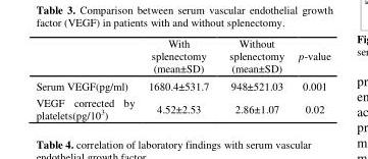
<table><thead><tr><td></td><td>With splenectomy (mean±SD)</td><td>Without splenectomy (mean±SD)</td><td>p-value</td></tr></thead><tbody><tr><td>Serum VEGF(pg/ml)</td><td>1680.4±531.7</td><td>948±521.03</td><td>0.001</td></tr><tr><td>VEGF corrected by platelets(pg/10<sup>3</sup>)</td><td>4.52±2.53</td><td>2.86±1.07</td><td>0.02</td></tr></tbody></table>